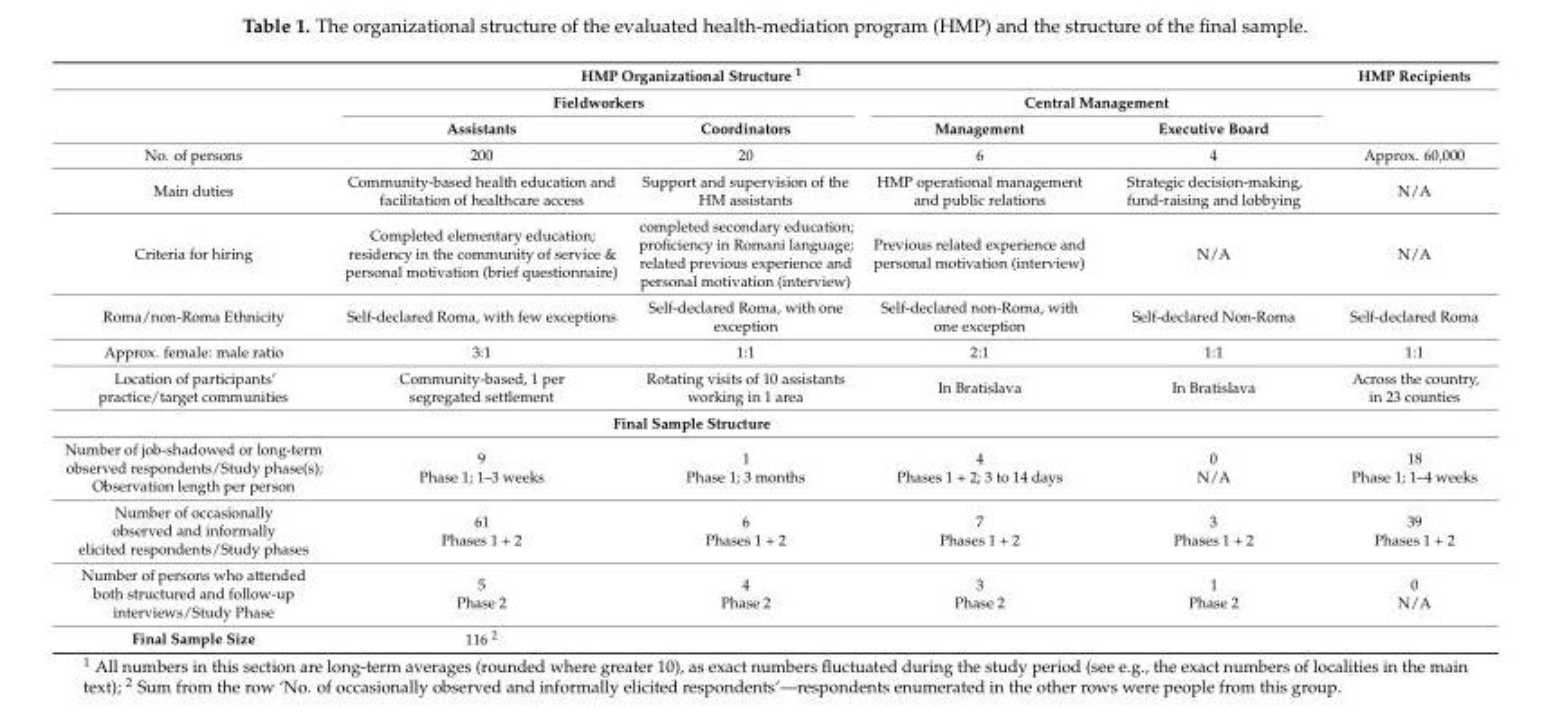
<table><thead><tr><td colspan="5">HMP Organizational Structure <sup>1</sup></td><td rowspan="3">HMP Recipients</td></tr><tr><td rowspan="2"></td><td colspan="2">Fieldworkers</td><td colspan="2">Central Management</td></tr><tr><td>Assistants</td><td>Coordinators</td><td>Management</td><td>Executive Board</td></tr></thead><tbody><tr><td>No. of persons</td><td>200</td><td>20</td><td>6</td><td>4</td><td>Approx. 60,000</td></tr><tr><td>Main duties</td><td>Community-based health education and facilitation of healthcare access</td><td>Support and supervision of the HM assistants</td><td>HMP operational management and public relations</td><td>Strategic decision-making, fund-raising and lobbying</td><td>N/A</td></tr><tr><td>Criteria for hiring</td><td>Completed elementary education; residency in the community of service &amp; personal motivation (brief questionnaire)</td><td>completed secondary education; proficiency in Romani language; related previous experience and personal motivation (interview)</td><td>Previous related experience and personal motivation (interview)</td><td>N/A</td><td>N/A</td></tr><tr><td>Roma/non-Roma Ethnicity</td><td>Self-declared Roma, with few exceptions</td><td>Self-declared Roma, with one exception</td><td>Self-declared non-Roma, with one exception</td><td>Self-declared Non-Roma</td><td>Self-declared Roma</td></tr><tr><td>Approx. female: male ratio</td><td>3:1</td><td>1:1</td><td>2:1</td><td>1:1</td><td>1:1</td></tr><tr><td>Location of participants’ practice/target communities</td><td>Community-based, 1 per segregated settlement</td><td>Rotating visits of 10 assistants working in 1 area</td><td>In Bratislava</td><td>In Bratislava</td><td>Across the country, in 23 counties</td></tr><tr><td colspan="6">Final Sample Structure</td></tr><tr><td>Number of job-shadowed or long-term observed respondents/Study phase(s); Observation length per person</td><td>9 Phase 1; 1–3 weeks</td><td>1 Phase 1; 3 months</td><td>4 Phases 1 + 2; 3 to 14 days</td><td>0 N/A</td><td>18 Phase 1; 1–4 weeks</td></tr><tr><td>Number of occasionally observed and informally elicited respondents/Study phases</td><td>61 Phases 1 + 2</td><td>6 Phases 1 + 2</td><td>7 Phases 1 + 2</td><td>3 Phases 1 + 2</td><td>39 Phases 1 + 2</td></tr><tr><td>Number of persons who attended both structured and follow-up interviews/Study Phase</td><td>5 Phase 2</td><td>4 Phase 2</td><td>3 Phase 2</td><td>1 Phase 2</td><td>0 N/A</td></tr><tr><td>Final Sample Size</td><td>116 <sup>2</sup></td><td></td><td></td><td></td><td></td></tr></tbody></table>